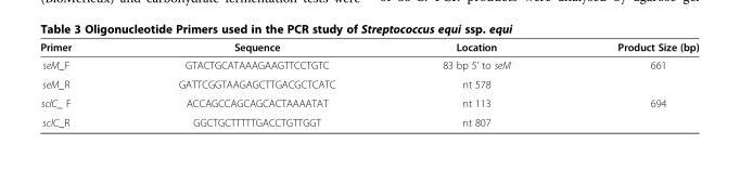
<table><thead><tr><td>Primer</td><td>Sequence</td><td>Location</td><td>Product Size (bp)</td></tr></thead><tbody><tr><td>seM_F</td><td>GTACTGCATAAAGAAGTTCCTGTC</td><td>83 bp 5’ to seM</td><td>661</td></tr><tr><td>seM_R</td><td>GATTCGGTAAGAGCTTGACGCTCATC</td><td>nt 578</td><td></td></tr><tr><td>sclC_ F</td><td>ACCAGCCAGCAGCACTAAAATAT</td><td>nt 113</td><td>694</td></tr><tr><td>sclC_R</td><td>GGCTGCTTTTTGACCTGTTGGT</td><td>nt 807</td><td></td></tr></tbody></table>